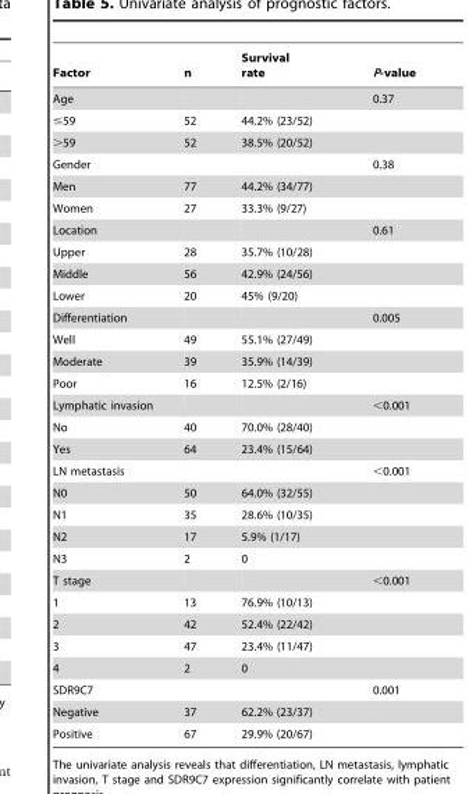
<table><thead><tr><td>Factor</td><td>n</td><td>Survival rate</td><td>P-value</td></tr></thead><tbody><tr><td>Age</td><td></td><td></td><td>0.37</td></tr><tr><td>≤59</td><td>52</td><td>44.2% (23/52)</td><td></td></tr><tr><td>&gt;59</td><td>52</td><td>38.5% (20/52)</td><td></td></tr><tr><td>Gender</td><td></td><td></td><td>0.38</td></tr><tr><td>Men</td><td>77</td><td>44.2% (34/77)</td><td></td></tr><tr><td>Women</td><td>27</td><td>33.3% (9/27)</td><td></td></tr><tr><td>Location</td><td></td><td></td><td>0.61</td></tr><tr><td>Upper</td><td>28</td><td>35.7% (10/28)</td><td></td></tr><tr><td>Middle</td><td>56</td><td>42.9% (24/56)</td><td></td></tr><tr><td>Lower</td><td>20</td><td>45% (9/20)</td><td></td></tr><tr><td>Differentiation</td><td></td><td></td><td>0.005</td></tr><tr><td>Well</td><td>49</td><td>55.1% (27/49)</td><td></td></tr><tr><td>Moderate</td><td>39</td><td>35.9% (14/39)</td><td></td></tr><tr><td>Poor</td><td>16</td><td>12.5% (2/16)</td><td></td></tr><tr><td>Lymphatic invasion</td><td></td><td></td><td>&lt;0.001</td></tr><tr><td>No</td><td>40</td><td>70.0% (28/40)</td><td></td></tr><tr><td>Yes</td><td>64</td><td>23.4% (15/64)</td><td></td></tr><tr><td>LN metastasis</td><td></td><td></td><td>&lt;0.001</td></tr><tr><td>N0</td><td>50</td><td>64.0% (32/55)</td><td></td></tr><tr><td>N1</td><td>35</td><td>28.6% (10/35)</td><td></td></tr><tr><td>N2</td><td>17</td><td>5.9% (1/17)</td><td></td></tr><tr><td>N3</td><td>2</td><td>0</td><td></td></tr><tr><td>T stage</td><td></td><td></td><td>&lt;0.001</td></tr><tr><td>1</td><td>13</td><td>76.9% (10/13)</td><td></td></tr><tr><td>2</td><td>42</td><td>52.4% (22/42)</td><td></td></tr><tr><td>3</td><td>47</td><td>23.4% (11/47)</td><td></td></tr><tr><td>4</td><td>2</td><td>0</td><td></td></tr><tr><td>SDR9C7</td><td></td><td></td><td>0.001</td></tr><tr><td>Negative</td><td>37</td><td>62.2% (23/37)</td><td></td></tr><tr><td>Positive</td><td>67</td><td>29.9% (20/67)</td><td></td></tr></tbody></table>